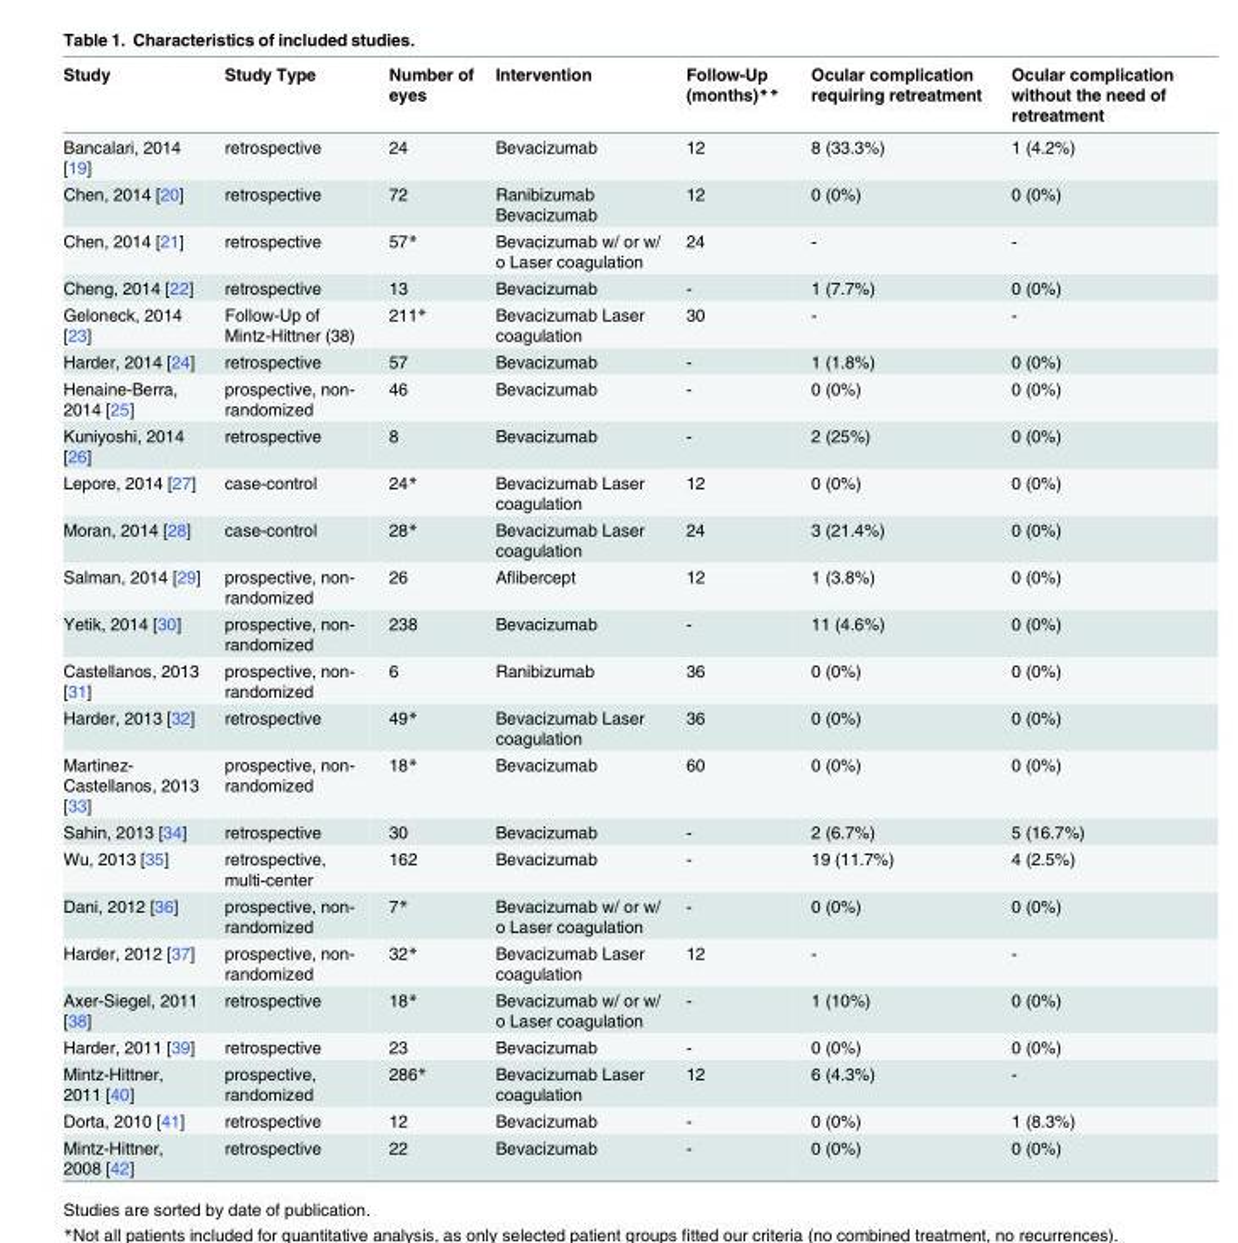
<table><thead><tr><td>Study</td><td>Study Type</td><td>Number of eyes</td><td>Intervention</td><td>Follow-Up (months)**</td><td>Ocular complication requiring retreatment</td><td>Ocular complication without the need of retreatment</td></tr></thead><tbody><tr><td>Bancalari, 2014 [19]</td><td>retrospective</td><td>24</td><td>Bevacizumab</td><td>12</td><td>8 (33.3%)</td><td>1 (4.2%)</td></tr><tr><td>Chen, 2014 [20]</td><td>retrospective</td><td>72</td><td>Ranibizumab Bevacizumab</td><td>12</td><td>0 (0%)</td><td>0 (0%)</td></tr><tr><td>Chen, 2014 [21]</td><td>retrospective</td><td>57*</td><td>Bevacizumab w/ or w/ o Laser coagulation</td><td>24</td><td>-</td><td>-</td></tr><tr><td>Cheng, 2014 [22]</td><td>retrospective</td><td>13</td><td>Bevacizumab</td><td>-</td><td>1 (7.7%)</td><td>0 (0%)</td></tr><tr><td>Geloneck, 2014 [23]</td><td>Follow-Up of Mintz-Hittner (38)</td><td>211*</td><td>Bevacizumab Laser coagulation</td><td>30</td><td>-</td><td>-</td></tr><tr><td>Harder, 2014 [24]</td><td>retrospective</td><td>57</td><td>Bevacizumab</td><td>-</td><td>1 (1.8%)</td><td>0 (0%)</td></tr><tr><td>Henaine-Berra, 2014 [25]</td><td>prospective, non- randomized</td><td>46</td><td>Bevacizumab</td><td>-</td><td>0 (0%)</td><td>0 (0%)</td></tr><tr><td>Kuniyoshi, 2014 [26]</td><td>retrospective</td><td>8</td><td>Bevacizumab</td><td>-</td><td>2 (25%)</td><td>0 (0%)</td></tr><tr><td>Lepore, 2014 [27]</td><td>case-control</td><td>24*</td><td>Bevacizumab Laser coagulation</td><td>12</td><td>0 (0%)</td><td>0 (0%)</td></tr><tr><td>Moran, 2014 [28]</td><td>case-control</td><td>28*</td><td>Bevacizumab Laser coagulation</td><td>24</td><td>3 (21.4%)</td><td>0 (0%)</td></tr><tr><td>Salman, 2014 [29]</td><td>prospective, non- randomized</td><td>26</td><td>Aflibercept</td><td>12</td><td>1 (3.8%)</td><td>0 (0%)</td></tr><tr><td>Yetik, 2014 [30]</td><td>prospective, non- randomized</td><td>238</td><td>Bevacizumab</td><td>-</td><td>11 (4.6%)</td><td>0 (0%)</td></tr><tr><td>Castellanos, 2013 [31]</td><td>prospective, non- randomized</td><td>6</td><td>Ranibizumab</td><td>36</td><td>0 (0%)</td><td>0 (0%)</td></tr><tr><td>Harder, 2013 [32]</td><td>retrospective</td><td>49*</td><td>Bevacizumab Laser coagulation</td><td>36</td><td>0 (0%)</td><td>0 (0%)</td></tr><tr><td>Martinez- Castellanos, 2013 [33]</td><td>prospective, non- randomized</td><td>18*</td><td>Bevacizumab</td><td>60</td><td>0 (0%)</td><td>0 (0%)</td></tr><tr><td>Sahin, 2013 [34]</td><td>retrospective</td><td>30</td><td>Bevacizumab</td><td>-</td><td>2 (6.7%)</td><td>5 (16.7%)</td></tr><tr><td>Wu, 2013 [35]</td><td>retrospective, multi-center</td><td>162</td><td>Bevacizumab</td><td>-</td><td>19 (11.7%)</td><td>4 (2.5%)</td></tr><tr><td>Dani, 2012 [36]</td><td>prospective, non- randomized</td><td>7*</td><td>Bevacizumab w/ or w/ o Laser coagulation</td><td>-</td><td>0 (0%)</td><td>0 (0%)</td></tr><tr><td>Harder, 2012 [37]</td><td>prospective, non- randomized</td><td>32*</td><td>Bevacizumab Laser coagulation</td><td>12</td><td>-</td><td>-</td></tr><tr><td>Axer-Siegel, 2011 [38]</td><td>retrospective</td><td>18*</td><td>Bevacizumab w/ or w/ o Laser coagulation</td><td>-</td><td>1 (10%)</td><td>0 (0%)</td></tr><tr><td>Harder, 2011 [39]</td><td>retrospective</td><td>23</td><td>Bevacizumab</td><td>-</td><td>0 (0%)</td><td>0 (0%)</td></tr><tr><td>Mintz-Hittner, 2011 [40]</td><td>prospective, randomized</td><td>286*</td><td>Bevacizumab Laser coagulation</td><td>12</td><td>6 (4.3%)</td><td>-</td></tr><tr><td>Dorta, 2010 [41]</td><td>retrospective</td><td>12</td><td>Bevacizumab</td><td>-</td><td>0 (0%)</td><td>1 (8.3%)</td></tr><tr><td>Mintz-Hittner, 2008 [42]</td><td>retrospective</td><td>22</td><td>Bevacizumab</td><td>-</td><td>0 (0%)</td><td>0 (0%)</td></tr></tbody></table>